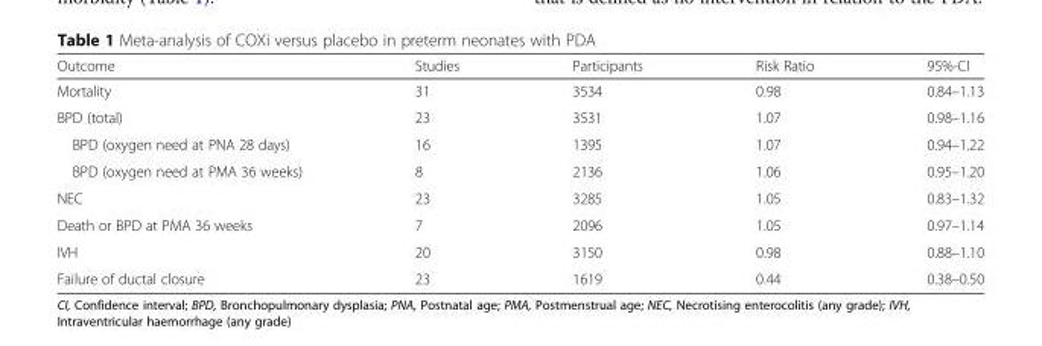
<table><thead><tr><td>Outcome</td><td>Studies</td><td>Participants</td><td>Risk Ratio</td><td>95%-CI</td></tr></thead><tbody><tr><td>Mortality</td><td>31</td><td>3534</td><td>0.98</td><td>0.84–1.13</td></tr><tr><td>BPD (total)</td><td>23</td><td>3531</td><td>1.07</td><td>0.98–1.16</td></tr><tr><td>BPD (oxygen need at PNA 28 days)</td><td>16</td><td>1395</td><td>1.07</td><td>0.94–1.22</td></tr><tr><td>BPD (oxygen need at PMA 36 weeks)</td><td>8</td><td>2136</td><td>1.06</td><td>0.95–1.20</td></tr><tr><td>NEC</td><td>23</td><td>3285</td><td>1.05</td><td>0.83–1.32</td></tr><tr><td>Death or BPD at PMA 36 weeks</td><td>7</td><td>2096</td><td>1.05</td><td>0.97–1.14</td></tr><tr><td>IVH</td><td>20</td><td>3150</td><td>0.98</td><td>0.88–1.10</td></tr><tr><td>Failure of ductal closure</td><td>23</td><td>1619</td><td>0.44</td><td>0.38–0.50</td></tr></tbody></table>